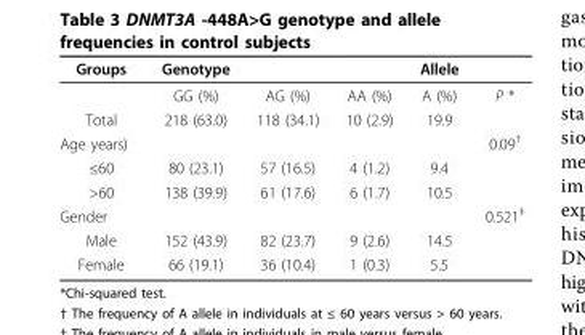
<table><thead><tr><td>Groups</td><td>Genotype</td><td></td><td></td><td>Allele</td><td></td></tr></thead><tbody><tr><td></td><td>GG (%)</td><td>AG (%)</td><td>AA (%)</td><td>A (%)</td><td>P *</td></tr><tr><td>Total</td><td>218 (63.0)</td><td>118 (34.1)</td><td>10 (2.9)</td><td>19.9</td><td></td></tr><tr><td>Age years)</td><td></td><td></td><td></td><td></td><td>0.09<sup>†</sup></td></tr><tr><td>≤60</td><td>80 (23.1)</td><td>57 (16.5)</td><td>4 (1.2)</td><td>9.4</td><td></td></tr><tr><td>&gt;60</td><td>138 (39.9)</td><td>61 (17.6)</td><td>6 (1.7)</td><td>10.5</td><td></td></tr><tr><td>Gender</td><td></td><td></td><td></td><td></td><td>0.521<sup>‡</sup></td></tr><tr><td>Male</td><td>152 (43.9)</td><td>82 (23.7)</td><td>9 (2.6)</td><td>14.5</td><td></td></tr><tr><td>Female</td><td>66 (19.1)</td><td>36 (10.4)</td><td>1 (0.3)</td><td>5.5</td><td></td></tr></tbody></table>